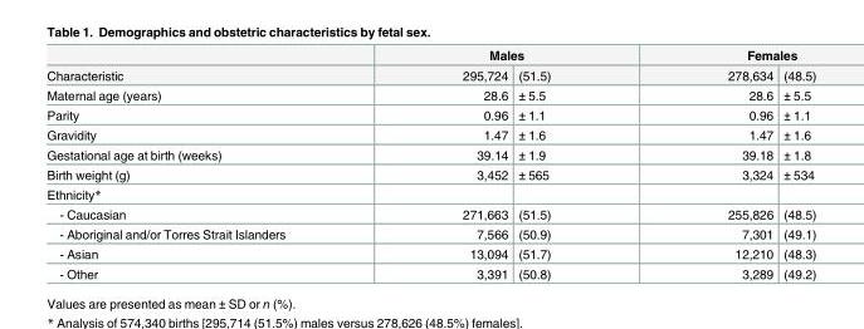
<table><thead><tr><td rowspan="2">Characteristic</td><td colspan="2">Males</td><td colspan="2">Females</td></tr><tr><td>295,724</td><td>(51.5)</td><td>278,634</td><td>(48.5)</td></tr></thead><tbody><tr><td>Maternal age (years)</td><td>28.6</td><td>± 5.5</td><td>28.6</td><td>± 5.5</td></tr><tr><td>Parity</td><td>0.96</td><td>± 1.1</td><td>0.96</td><td>± 1.1</td></tr><tr><td>Gravidity</td><td>1.47</td><td>± 1.6</td><td>1.47</td><td>± 1.6</td></tr><tr><td>Gestational age at birth (weeks)</td><td>39.14</td><td>± 1.9</td><td>39.18</td><td>± 1.8</td></tr><tr><td>Birth weight (g)</td><td>3,452</td><td>± 565</td><td>3,324</td><td>± 534</td></tr><tr><td colspan="5">Ethnicity*</td></tr><tr><td>- Caucasian</td><td>271,663</td><td>(51.5)</td><td>255,826</td><td>(48.5)</td></tr><tr><td>- Aboriginal and/or Torres Strait Islanders</td><td>7,566</td><td>(50.9)</td><td>7,301</td><td>(49.1)</td></tr><tr><td>- Asian</td><td>13,094</td><td>(51.7)</td><td>12,210</td><td>(48.3)</td></tr><tr><td>- Other</td><td>3,391</td><td>(50.8)</td><td>3,289</td><td>(49.2)</td></tr></tbody></table>